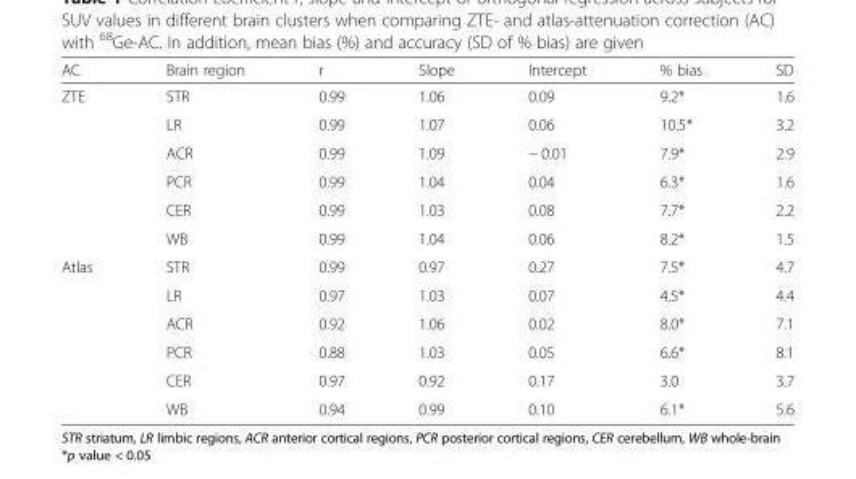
<table><thead><tr><td>AC</td><td>Brain region</td><td>r</td><td>Slope</td><td>Intercept</td><td>% bias</td><td>SD</td></tr></thead><tbody><tr><td rowspan="6">ZTE</td><td>STR</td><td>0.99</td><td>1.06</td><td>0.09</td><td>9.2*</td><td>1.6</td></tr><tr><td>LR</td><td>0.99</td><td>1.07</td><td>0.06</td><td>10.5*</td><td>3.2</td></tr><tr><td>ACR</td><td>0.99</td><td>1.09</td><td>− 0.01</td><td>7.9*</td><td>2.9</td></tr><tr><td>PCR</td><td>0.99</td><td>1.04</td><td>0.04</td><td>6.3*</td><td>1.6</td></tr><tr><td>CER</td><td>0.99</td><td>1.03</td><td>0.08</td><td>7.7*</td><td>2.2</td></tr><tr><td>WB</td><td>0.99</td><td>1.04</td><td>0.06</td><td>8.2*</td><td>1.5</td></tr><tr><td rowspan="6">Atlas</td><td>STR</td><td>0.99</td><td>0.97</td><td>0.27</td><td>7.5*</td><td>4.7</td></tr><tr><td>LR</td><td>0.97</td><td>1.03</td><td>0.07</td><td>4.5*</td><td>4.4</td></tr><tr><td>ACR</td><td>0.92</td><td>1.06</td><td>0.02</td><td>8.0*</td><td>7.1</td></tr><tr><td>PCR</td><td>0.88</td><td>1.03</td><td>0.05</td><td>6.6*</td><td>8.1</td></tr><tr><td>CER</td><td>0.97</td><td>0.92</td><td>0.17</td><td>3.0</td><td>3.7</td></tr><tr><td>WB</td><td>0.94</td><td>0.99</td><td>0.10</td><td>6.1*</td><td>5.6</td></tr></tbody></table>